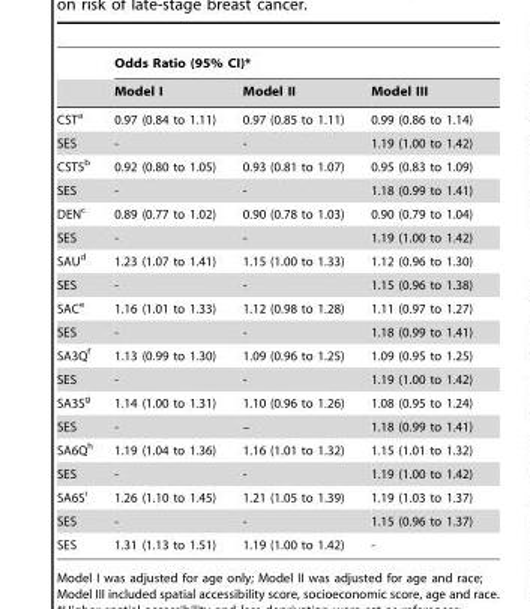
<table><thead><tr><td rowspan="2"></td><td colspan="3">Odds Ratio (95% CI)*</td></tr><tr><td>Model I</td><td>Model II</td><td>Model III</td></tr></thead><tbody><tr><td>CST<sup>a</sup></td><td>0.97 (0.84 to 1.11)</td><td>0.97 (0.85 to 1.11)</td><td>0.99 (0.86 to 1.14)</td></tr><tr><td>SES</td><td>-</td><td>-</td><td>1.19 (1.00 to 1.42)</td></tr><tr><td>CST5<sup>b</sup></td><td>0.92 (0.80 to 1.05)</td><td>0.93 (0.81 to 1.07)</td><td>0.95 (0.83 to 1.09)</td></tr><tr><td>SES</td><td>-</td><td>-</td><td>1.18 (0.99 to 1.41)</td></tr><tr><td>DEN<sup>c</sup></td><td>0.89 (0.77 to 1.02)</td><td>0.90 (0.78 to 1.03)</td><td>0.90 (0.79 to 1.04)</td></tr><tr><td>SES</td><td>-</td><td>-</td><td>1.19 (1.00 to 1.42)</td></tr><tr><td>SAU<sup>d</sup></td><td>1.23 (1.07 to 1.41)</td><td>1.15 (1.00 to 1.33)</td><td>1.12 (0.96 to 1.30)</td></tr><tr><td>SES</td><td>-</td><td>-</td><td>1.15 (0.96 to 1.38)</td></tr><tr><td>SAC<sup>e</sup></td><td>1.16 (1.01 to 1.33)</td><td>1.12 (0.98 to 1.28)</td><td>1.11 (0.97 to 1.27)</td></tr><tr><td>SES</td><td>-</td><td>-</td><td>1.18 (0.99 to 1.41)</td></tr><tr><td>SA3Q<sup>f</sup></td><td>1.13 (0.99 to 1.30)</td><td>1.09 (0.96 to 1.25)</td><td>1.09 (0.95 to 1.25)</td></tr><tr><td>SES</td><td>-</td><td>-</td><td>1.19 (1.00 to 1.42)</td></tr><tr><td>SA3S<sup>g</sup></td><td>1.14 (1.00 to 1.31)</td><td>1.10 (0.96 to 1.26)</td><td>1.08 (0.95 to 1.24)</td></tr><tr><td>SES</td><td>-</td><td>–</td><td>1.18 (0.99 to 1.41)</td></tr><tr><td>SA6Q<sup>h</sup></td><td>1.19 (1.04 to 1.36)</td><td>1.16 (1.01 to 1.32)</td><td>1.15 (1.01 to 1.32)</td></tr><tr><td>SES</td><td>-</td><td>-</td><td>1.19 (1.00 to 1.42)</td></tr><tr><td>SA6S<sup>i</sup></td><td>1.26 (1.10 to 1.45)</td><td>1.21 (1.05 to 1.39)</td><td>1.19 (1.03 to 1.37)</td></tr><tr><td>SES</td><td>-</td><td>-</td><td>1.15 (0.96 to 1.37)</td></tr><tr><td>SES</td><td>1.31 (1.13 to 1.51)</td><td>1.19 (1.00 to 1.42)</td><td>-</td></tr></tbody></table>